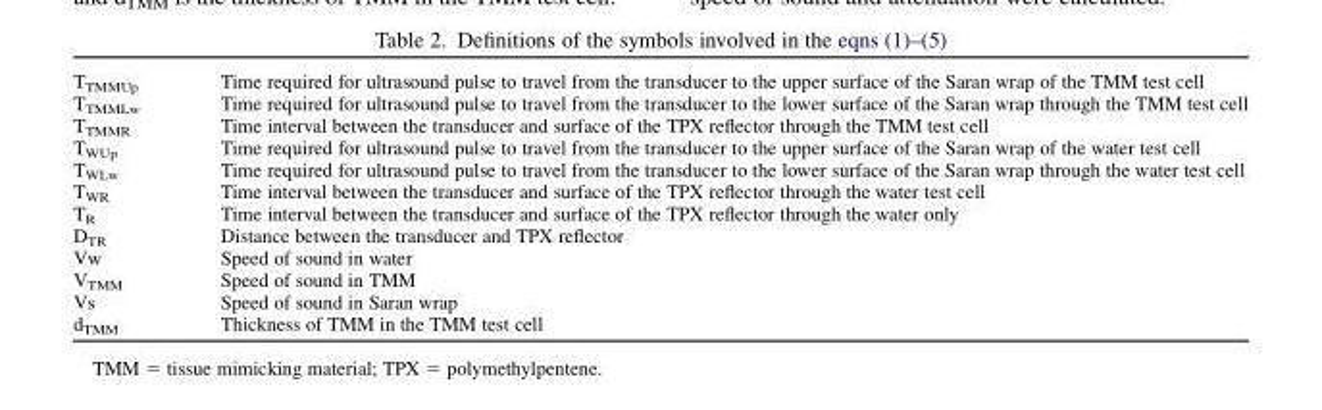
<table><tbody><tr><td>T<sub>TMMUp</sub></td><td>Time required for ultrasound pulse to travel from the transducer to the upper surface of the Saran wrap of the TMM test cell</td></tr><tr><td>T<sub>TMMLw</sub></td><td>Time required for ultrasound pulse to travel from the transducer to the lower surface of the Saran wrap through the TMM test cell</td></tr><tr><td>T<sub>TMMR</sub></td><td>Time interval between the transducer and surface of the TPX reflector through the TMM test cell</td></tr><tr><td>T<sub>WUp</sub></td><td>Time required for ultrasound pulse to travel from the transducer to the upper surface of the Saran wrap of the water test cell</td></tr><tr><td>T<sub>WLw</sub></td><td>Time required for ultrasound pulse to travel from the transducer to the lower surface of the Saran wrap through the water test cell</td></tr><tr><td>T<sub>WR</sub></td><td>Time interval between the transducer and surface of the TPX reflector through the water test cell</td></tr><tr><td>T<sub>R</sub></td><td>Time interval between the transducer and surface of the TPX reflector through the water only</td></tr><tr><td>D<sub>TR</sub></td><td>Distance between the transducer and TPX reflector</td></tr><tr><td>Vw</td><td>Speed of sound in water</td></tr><tr><td>V<sub>TMM</sub></td><td>Speed of sound in TMM</td></tr><tr><td>Vs</td><td>Speed of sound in Saran wrap</td></tr><tr><td>d<sub>TMM</sub></td><td>Thickness of TMM in the TMM test cell</td></tr></tbody></table>